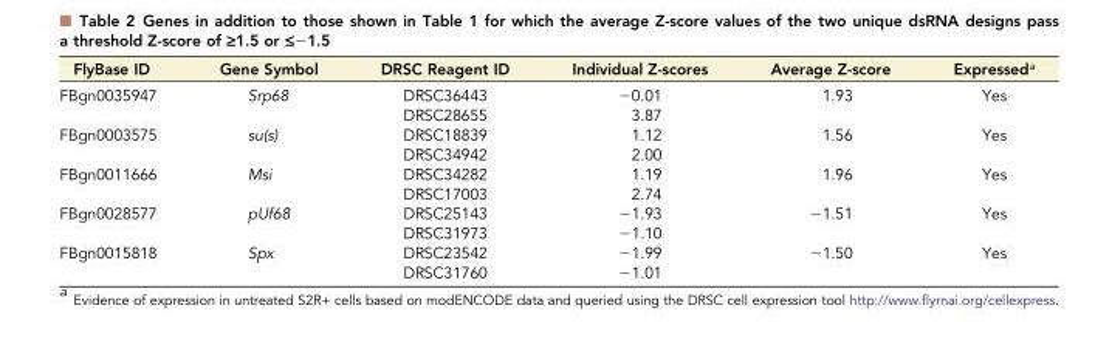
<table><thead><tr><td>FlyBase ID</td><td>Gene Symbol</td><td>DRSC Reagent ID</td><td>Individual Z-scores</td><td>Average Z-score</td><td>Expressed<sup>a</sup></td></tr></thead><tbody><tr><td rowspan="2">FBgn0035947</td><td>Srp68</td><td>DRSC36443</td><td>−0.01</td><td>1.93</td><td>Yes</td></tr><tr><td></td><td>DRSC28655</td><td>3.87</td><td></td><td></td></tr><tr><td rowspan="2">FBgn0003575</td><td>su(s)</td><td>DRSC18839</td><td>1.12</td><td>1.56</td><td>Yes</td></tr><tr><td></td><td>DRSC34942</td><td>2.00</td><td></td><td></td></tr><tr><td rowspan="2">FBgn0011666</td><td>Msi</td><td>DRSC34282</td><td>1.19</td><td>1.96</td><td>Yes</td></tr><tr><td></td><td>DRSC17003</td><td>2.74</td><td></td><td></td></tr><tr><td rowspan="2">FBgn0028577</td><td>pUf68</td><td>DRSC25143</td><td>−1.93</td><td>−1.51</td><td>Yes</td></tr><tr><td></td><td>DRSC31973</td><td>−1.10</td><td></td><td></td></tr><tr><td rowspan="2">FBgn0015818</td><td>Spx</td><td>DRSC23542</td><td>−1.99</td><td>−1.50</td><td>Yes</td></tr><tr><td></td><td>DRSC31760</td><td>−1.01</td><td></td><td></td></tr></tbody></table>